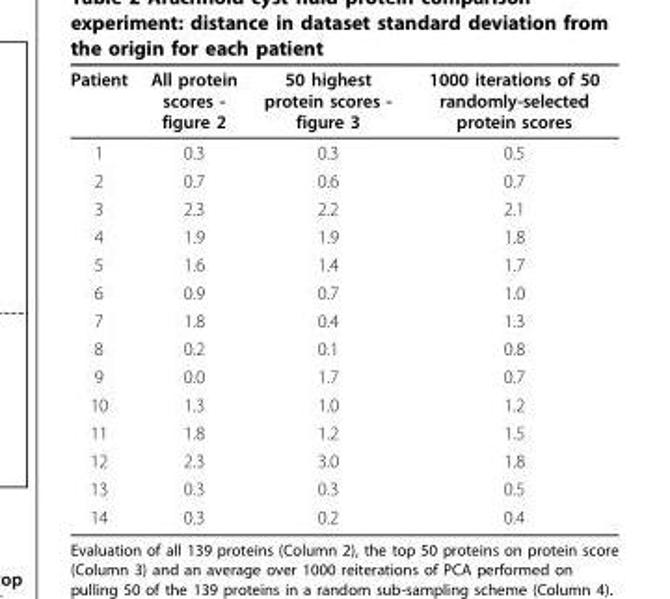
<table><thead><tr><td>Patient</td><td>All protein scores - figure 2</td><td>50 highest protein scores - figure 3</td><td>1000 iterations of 50 randomly-selected protein scores</td></tr></thead><tbody><tr><td>1</td><td>0.3</td><td>0.3</td><td>0.5</td></tr><tr><td>2</td><td>0.7</td><td>0.6</td><td>0.7</td></tr><tr><td>3</td><td>2.3</td><td>2.2</td><td>2.1</td></tr><tr><td>4</td><td>1.9</td><td>1.9</td><td>1.8</td></tr><tr><td>5</td><td>1.6</td><td>1.4</td><td>1.7</td></tr><tr><td>6</td><td>0.9</td><td>0.7</td><td>1.0</td></tr><tr><td>7</td><td>1.8</td><td>0.4</td><td>1.3</td></tr><tr><td>8</td><td>0.2</td><td>0.1</td><td>0.8</td></tr><tr><td>9</td><td>0.0</td><td>1.7</td><td>0.7</td></tr><tr><td>10</td><td>1.3</td><td>1.0</td><td>1.2</td></tr><tr><td>11</td><td>1.8</td><td>1.2</td><td>1.5</td></tr><tr><td>12</td><td>2.3</td><td>3.0</td><td>1.8</td></tr><tr><td>13</td><td>0.3</td><td>0.3</td><td>0.5</td></tr><tr><td>14</td><td>0.3</td><td>0.2</td><td>0.4</td></tr></tbody></table>